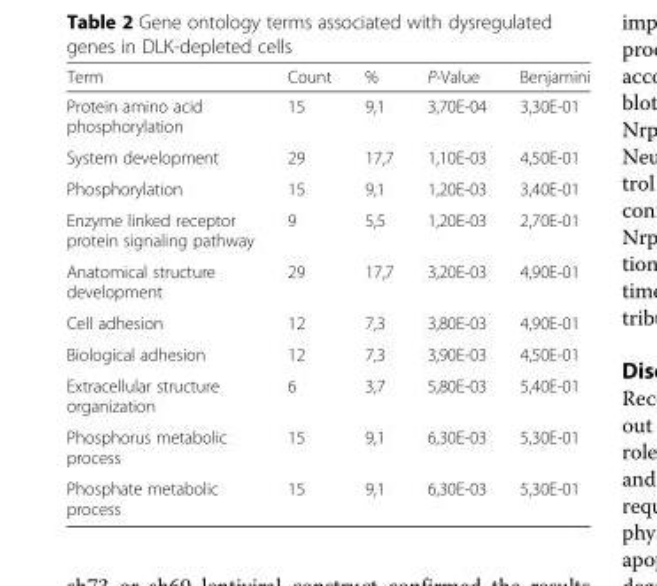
<table><thead><tr><td>Term</td><td>Count</td><td>%</td><td>P-Value</td><td>Benjamini</td></tr></thead><tbody><tr><td>Protein amino acid phosphorylation</td><td>15</td><td>9,1</td><td>3,70E-04</td><td>3,30E-01</td></tr><tr><td>System development</td><td>29</td><td>17,7</td><td>1,10E-03</td><td>4,50E-01</td></tr><tr><td>Phosphorylation</td><td>15</td><td>9,1</td><td>1,20E-03</td><td>3,40E-01</td></tr><tr><td>Enzyme linked receptor protein signaling pathway</td><td>9</td><td>5,5</td><td>1,20E-03</td><td>2,70E-01</td></tr><tr><td>Anatomical structure development</td><td>29</td><td>17,7</td><td>3,20E-03</td><td>4,90E-01</td></tr><tr><td>Cell adhesion</td><td>12</td><td>7,3</td><td>3,80E-03</td><td>4,90E-01</td></tr><tr><td>Biological adhesion</td><td>12</td><td>7,3</td><td>3,90E-03</td><td>4,50E-01</td></tr><tr><td>Extracellular structure organization</td><td>6</td><td>3,7</td><td>5,80E-03</td><td>5,40E-01</td></tr><tr><td>Phosphorus metabolic process</td><td>15</td><td>9,1</td><td>6,30E-03</td><td>5,30E-01</td></tr><tr><td>Phosphate metabolic process</td><td>15</td><td>9,1</td><td>6,30E-03</td><td>5,30E-01</td></tr></tbody></table>